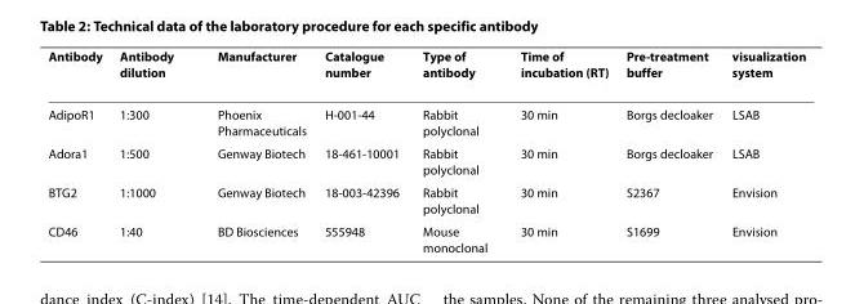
<table><thead><tr><td>Antibody</td><td>Antibody dilution</td><td>Manufacturer</td><td>Catalogue number</td><td>Type of antibody</td><td>Time of incubation (RT)</td><td>Pre-treatment buffer</td><td>visualization system</td></tr></thead><tbody><tr><td>AdipoR1</td><td>1:300</td><td>Phoenix Pharmaceuticals</td><td>H-001-44</td><td>Rabbit polyclonal</td><td>30 min</td><td>Borgs decloaker</td><td>LSAB</td></tr><tr><td>Adora1</td><td>1:500</td><td>Genway Biotech</td><td>18-461-10001</td><td>Rabbit polyclonal</td><td>30 min</td><td>Borgs decloaker</td><td>LSAB</td></tr><tr><td>BTG2</td><td>1:1000</td><td>Genway Biotech</td><td>18-003-42396</td><td>Rabbit polyclonal</td><td>30 min</td><td>S2367</td><td>Envision</td></tr><tr><td>CD46</td><td>1:40</td><td>BD Biosciences</td><td>555948</td><td>Mouse monoclonal</td><td>30 min</td><td>S1699</td><td>Envision</td></tr></tbody></table>